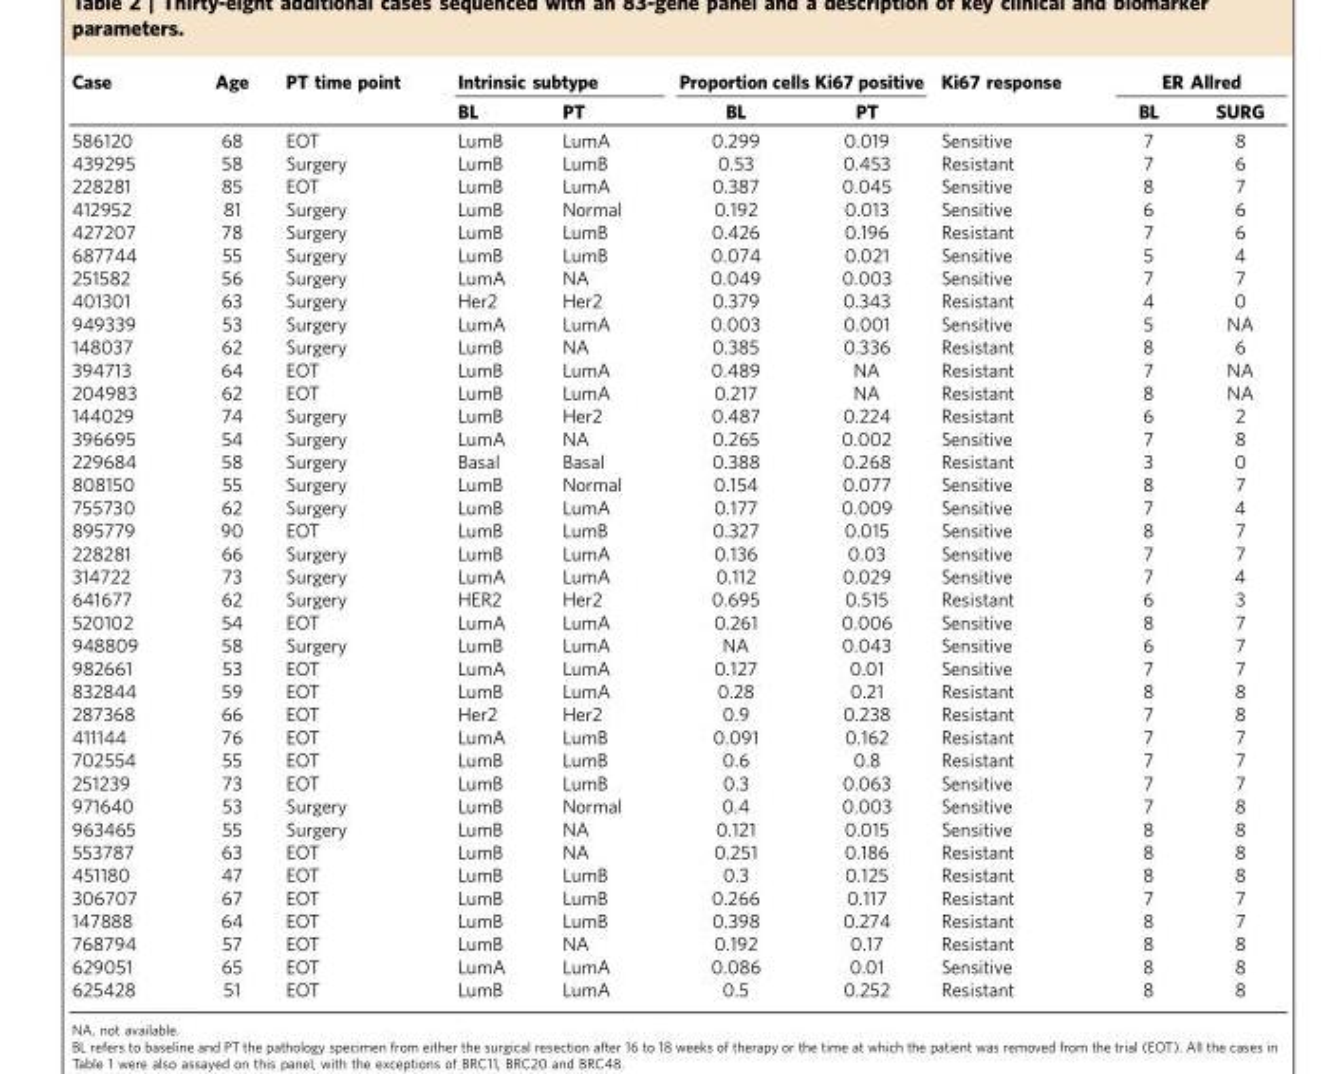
<table><thead><tr><td rowspan="2">Case</td><td rowspan="2">Age</td><td rowspan="2">PT time point</td><td colspan="2">Intrinsic subtype</td><td colspan="2">Proportion cells Ki67 positive</td><td rowspan="2">Ki67 response</td><td colspan="2">ER Allred</td></tr><tr><td>BL</td><td>PT</td><td>BL</td><td>PT</td><td>BL</td><td>SURG</td></tr></thead><tbody><tr><td>586120</td><td>68</td><td>EOT</td><td>LumB</td><td>LumA</td><td>0.299</td><td>0.019</td><td>Sensitive</td><td>7</td><td>8</td></tr><tr><td>439295</td><td>58</td><td>Surgery</td><td>LumB</td><td>LumB</td><td>0.53</td><td>0.453</td><td>Resistant</td><td>7</td><td>6</td></tr><tr><td>228281</td><td>85</td><td>EOT</td><td>LumB</td><td>LumA</td><td>0.387</td><td>0.045</td><td>Sensitive</td><td>8</td><td>7</td></tr><tr><td>412952</td><td>81</td><td>Surgery</td><td>LumB</td><td>Normal</td><td>0.192</td><td>0.013</td><td>Sensitive</td><td>6</td><td>6</td></tr><tr><td>427207</td><td>78</td><td>Surgery</td><td>LumB</td><td>LumB</td><td>0.426</td><td>0.196</td><td>Resistant</td><td>7</td><td>6</td></tr><tr><td>687744</td><td>55</td><td>Surgery</td><td>LumB</td><td>LumB</td><td>0.074</td><td>0.021</td><td>Sensitive</td><td>5</td><td>4</td></tr><tr><td>251582</td><td>56</td><td>Surgery</td><td>LumA</td><td>NA</td><td>0.049</td><td>0.003</td><td>Sensitive</td><td>7</td><td>7</td></tr><tr><td>401301</td><td>63</td><td>Surgery</td><td>Her2</td><td>Her2</td><td>0.379</td><td>0.343</td><td>Resistant</td><td>4</td><td>0</td></tr><tr><td>949339</td><td>53</td><td>Surgery</td><td>LumA</td><td>LumA</td><td>0.003</td><td>0.001</td><td>Sensitive</td><td>5</td><td>NA</td></tr><tr><td>148037</td><td>62</td><td>Surgery</td><td>LumB</td><td>NA</td><td>0.385</td><td>0.336</td><td>Resistant</td><td>8</td><td>6</td></tr><tr><td>394713</td><td>64</td><td>EOT</td><td>LumB</td><td>LumA</td><td>0.489</td><td>NA</td><td>Resistant</td><td>7</td><td>NA</td></tr><tr><td>204983</td><td>62</td><td>EOT</td><td>LumB</td><td>LumA</td><td>0.217</td><td>NA</td><td>Resistant</td><td>8</td><td>NA</td></tr><tr><td>144029</td><td>74</td><td>Surgery</td><td>LumB</td><td>Her2</td><td>0.487</td><td>0.224</td><td>Resistant</td><td>6</td><td>2</td></tr><tr><td>396695</td><td>54</td><td>Surgery</td><td>LumA</td><td>NA</td><td>0.265</td><td>0.002</td><td>Sensitive</td><td>7</td><td>8</td></tr><tr><td>229684</td><td>58</td><td>Surgery</td><td>Basal</td><td>Basal</td><td>0.388</td><td>0.268</td><td>Resistant</td><td>3</td><td>0</td></tr><tr><td>808150</td><td>55</td><td>Surgery</td><td>LumB</td><td>Normal</td><td>0.154</td><td>0.077</td><td>Sensitive</td><td>8</td><td>7</td></tr><tr><td>755730</td><td>62</td><td>Surgery</td><td>LumB</td><td>LumA</td><td>0.177</td><td>0.009</td><td>Sensitive</td><td>7</td><td>4</td></tr><tr><td>895779</td><td>90</td><td>EOT</td><td>LumB</td><td>LumB</td><td>0.327</td><td>0.015</td><td>Sensitive</td><td>8</td><td>7</td></tr><tr><td>228281</td><td>66</td><td>Surgery</td><td>LumB</td><td>LumA</td><td>0.136</td><td>0.03</td><td>Sensitive</td><td>7</td><td>7</td></tr><tr><td>314722</td><td>73</td><td>Surgery</td><td>LumA</td><td>LumA</td><td>0.112</td><td>0.029</td><td>Sensitive</td><td>7</td><td>4</td></tr><tr><td>641677</td><td>62</td><td>Surgery</td><td>HER2</td><td>Her2</td><td>0.695</td><td>0.515</td><td>Resistant</td><td>6</td><td>3</td></tr><tr><td>520102</td><td>54</td><td>EOT</td><td>LumA</td><td>LumA</td><td>0.261</td><td>0.006</td><td>Sensitive</td><td>8</td><td>7</td></tr><tr><td>948809</td><td>58</td><td>Surgery</td><td>LumB</td><td>LumA</td><td>NA</td><td>0.043</td><td>Sensitive</td><td>6</td><td>7</td></tr><tr><td>982661</td><td>53</td><td>EOT</td><td>LumA</td><td>LumA</td><td>0.127</td><td>0.01</td><td>Sensitive</td><td>7</td><td>7</td></tr><tr><td>832844</td><td>59</td><td>EOT</td><td>LumB</td><td>LumA</td><td>0.28</td><td>0.21</td><td>Resistant</td><td>8</td><td>8</td></tr><tr><td>287368</td><td>66</td><td>EOT</td><td>Her2</td><td>Her2</td><td>0.9</td><td>0.238</td><td>Resistant</td><td>7</td><td>8</td></tr><tr><td>411144</td><td>76</td><td>EOT</td><td>LumA</td><td>LumB</td><td>0.091</td><td>0.162</td><td>Resistant</td><td>7</td><td>7</td></tr><tr><td>702554</td><td>55</td><td>EOT</td><td>LumB</td><td>LumB</td><td>0.6</td><td>0.8</td><td>Resistant</td><td>7</td><td>7</td></tr><tr><td>251239</td><td>73</td><td>EOT</td><td>LumB</td><td>LumB</td><td>0.3</td><td>0.063</td><td>Sensitive</td><td>7</td><td>7</td></tr><tr><td>971640</td><td>53</td><td>Surgery</td><td>LumB</td><td>Normal</td><td>0.4</td><td>0.003</td><td>Sensitive</td><td>7</td><td>8</td></tr><tr><td>963465</td><td>55</td><td>Surgery</td><td>LumB</td><td>NA</td><td>0.121</td><td>0.015</td><td>Sensitive</td><td>8</td><td>8</td></tr><tr><td>553787</td><td>63</td><td>EOT</td><td>LumB</td><td>NA</td><td>0.251</td><td>0.186</td><td>Resistant</td><td>8</td><td>8</td></tr><tr><td>451180</td><td>47</td><td>EOT</td><td>LumB</td><td>LumB</td><td>0.3</td><td>0.125</td><td>Resistant</td><td>8</td><td>8</td></tr><tr><td>306707</td><td>67</td><td>EOT</td><td>LumB</td><td>LumB</td><td>0.266</td><td>0.117</td><td>Resistant</td><td>7</td><td>7</td></tr><tr><td>147888</td><td>64</td><td>EOT</td><td>LumB</td><td>LumB</td><td>0.398</td><td>0.274</td><td>Resistant</td><td>8</td><td>7</td></tr><tr><td>768794</td><td>57</td><td>EOT</td><td>LumB</td><td>NA</td><td>0.192</td><td>0.17</td><td>Resistant</td><td>8</td><td>8</td></tr><tr><td>629051</td><td>65</td><td>EOT</td><td>LumA</td><td>LumA</td><td>0.086</td><td>0.01</td><td>Sensitive</td><td>8</td><td>8</td></tr><tr><td>625428</td><td>51</td><td>EOT</td><td>LumB</td><td>LumA</td><td>0.5</td><td>0.252</td><td>Resistant</td><td>8</td><td>8</td></tr></tbody></table>